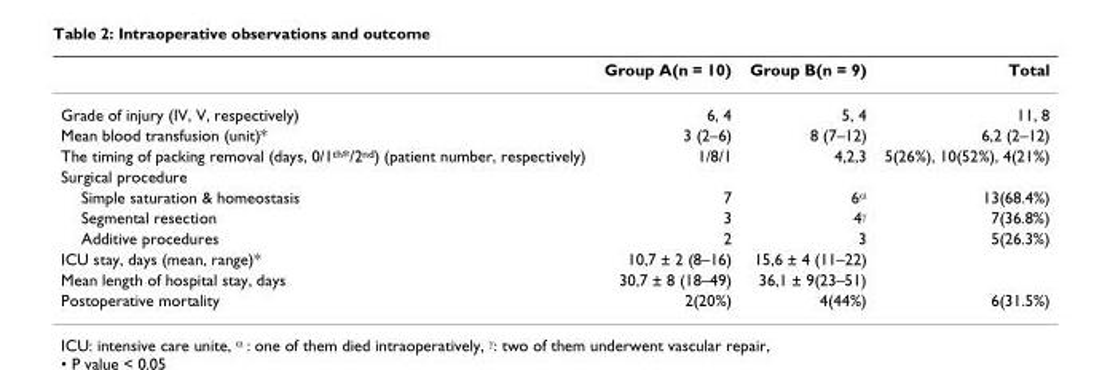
<table><thead><tr><td></td><td>Group A(n = 10)</td><td>Group B(n = 9)</td><td>Total</td></tr></thead><tbody><tr><td>Grade of injury (IV, V, respectively)</td><td>6, 4</td><td>5, 4</td><td>11, 8</td></tr><tr><td>Mean blood transfusion (unit)*</td><td>3 (2–6)</td><td>8 (7–12)</td><td>6,2 (2–12)</td></tr><tr><td>The timing of packing removal (days, 0/1<sup>th</sup>*/2<sup>nd</sup>) (patient number, respectively)</td><td>1/8/1</td><td>4,2,3</td><td>5(26%), 10(52%), 4(21%)</td></tr><tr><td colspan="4">Surgical procedure</td></tr><tr><td>Simple saturation &amp; homeostasis</td><td>7</td><td>6<sup>α</sup></td><td>13(68.4%)</td></tr><tr><td>Segmental resection</td><td>3</td><td>4<sup>γ</sup></td><td>7(36.8%)</td></tr><tr><td>Additive procedures</td><td>2</td><td>3</td><td>5(26.3%)</td></tr><tr><td>ICU stay, days (mean, range)*</td><td>10,7 ± 2 (8–16)</td><td>15,6 ± 4 (11–22)</td><td></td></tr><tr><td>Mean length of hospital stay, days</td><td>30,7 ± 8 (18–49)</td><td>36,1 ± 9(23–51)</td><td></td></tr><tr><td>Postoperative mortality</td><td>2(20%)</td><td>4(44%)</td><td>6(31.5%)</td></tr></tbody></table>